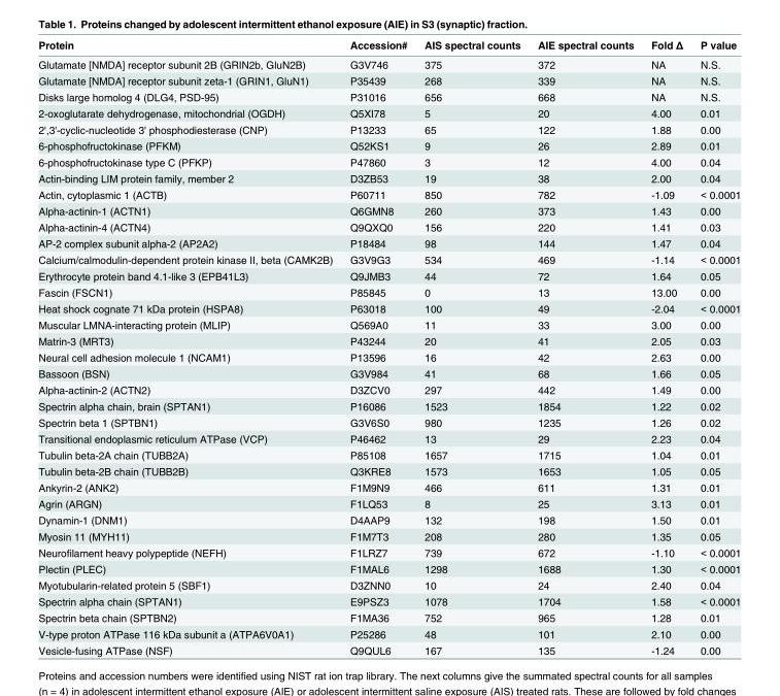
<table><thead><tr><td>Protein</td><td>Accession#</td><td>AIS spectral counts</td><td>AIE spectral counts</td><td>Fold Δ</td><td>P value</td></tr></thead><tbody><tr><td>Glutamate [NMDA] receptor subunit 2B (GRIN2b, GluN2B)</td><td>G3V746</td><td>375</td><td>372</td><td>NA</td><td>N.S.</td></tr><tr><td>Glutamate [NMDA] receptor subunit zeta-1 (GRIN1, GluN1)</td><td>P35439</td><td>268</td><td>339</td><td>NA</td><td>N.S.</td></tr><tr><td>Disks large homolog 4 (DLG4, PSD-95)</td><td>P31016</td><td>656</td><td>668</td><td>NA</td><td>N.S.</td></tr><tr><td>2-oxoglutarate dehydrogenase, mitochondrial (OGDH)</td><td>Q5XI78</td><td>5</td><td>20</td><td>4.00</td><td>0.01</td></tr><tr><td>2&#x27;,3&#x27;-cyclic-nucleotide 3&#x27; phosphodiesterase (CNP)</td><td>P13233</td><td>65</td><td>122</td><td>1.88</td><td>0.00</td></tr><tr><td>6-phosphofructokinase (PFKM)</td><td>Q52KS1</td><td>9</td><td>26</td><td>2.89</td><td>0.01</td></tr><tr><td>6-phosphofructokinase type C (PFKP)</td><td>P47860</td><td>3</td><td>12</td><td>4.00</td><td>0.04</td></tr><tr><td>Actin-binding LIM protein family, member 2</td><td>D3ZB53</td><td>19</td><td>38</td><td>2.00</td><td>0.04</td></tr><tr><td>Actin, cytoplasmic 1 (ACTB)</td><td>P60711</td><td>850</td><td>782</td><td>-1.09</td><td>&lt; 0.0001</td></tr><tr><td>Alpha-actinin-1 (ACTN1)</td><td>Q6GMN8</td><td>260</td><td>373</td><td>1.43</td><td>0.00</td></tr><tr><td>Alpha-actinin-4 (ACTN4)</td><td>Q9QXQ0</td><td>156</td><td>220</td><td>1.41</td><td>0.03</td></tr><tr><td>AP-2 complex subunit alpha-2 (AP2A2)</td><td>P18484</td><td>98</td><td>144</td><td>1.47</td><td>0.04</td></tr><tr><td>Calcium/calmodulin-dependent protein kinase II, beta (CAMK2B)</td><td>G3V9G3</td><td>534</td><td>469</td><td>-1.14</td><td>&lt; 0.0001</td></tr><tr><td>Erythrocyte protein band 4.1-like 3 (EPB41L3)</td><td>Q9JMB3</td><td>44</td><td>72</td><td>1.64</td><td>0.05</td></tr><tr><td>Fascin (FSCN1)</td><td>P85845</td><td>0</td><td>13</td><td>13.00</td><td>0.00</td></tr><tr><td>Heat shock cognate 71 kDa protein (HSPA8)</td><td>P63018</td><td>100</td><td>49</td><td>-2.04</td><td>&lt; 0.0001</td></tr><tr><td>Muscular LMNA-interacting protein (MLIP)</td><td>Q569A0</td><td>11</td><td>33</td><td>3.00</td><td>0.00</td></tr><tr><td>Matrin-3 (MRT3)</td><td>P43244</td><td>20</td><td>41</td><td>2.05</td><td>0.03</td></tr><tr><td>Neural cell adhesion molecule 1 (NCAM1)</td><td>P13596</td><td>16</td><td>42</td><td>2.63</td><td>0.00</td></tr><tr><td>Bassoon (BSN)</td><td>G3V984</td><td>41</td><td>68</td><td>1.66</td><td>0.05</td></tr><tr><td>Alpha-actinin-2 (ACTN2)</td><td>D3ZCV0</td><td>297</td><td>442</td><td>1.49</td><td>0.00</td></tr><tr><td>Spectrin alpha chain, brain (SPTAN1)</td><td>P16086</td><td>1523</td><td>1854</td><td>1.22</td><td>0.02</td></tr><tr><td>Spectrin beta 1 (SPTBN1)</td><td>G3V6S0</td><td>980</td><td>1235</td><td>1.26</td><td>0.02</td></tr><tr><td>Transitional endoplasmic reticulum ATPase (VCP)</td><td>P46462</td><td>13</td><td>29</td><td>2.23</td><td>0.04</td></tr><tr><td>Tubulin beta-2A chain (TUBB2A)</td><td>P85108</td><td>1657</td><td>1715</td><td>1.04</td><td>0.01</td></tr><tr><td>Tubulin beta-2B chain (TUBB2B)</td><td>Q3KRE8</td><td>1573</td><td>1653</td><td>1.05</td><td>0.05</td></tr><tr><td>Ankyrin-2 (ANK2)</td><td>F1M9N9</td><td>466</td><td>611</td><td>1.31</td><td>0.01</td></tr><tr><td>Agrin (ARGN)</td><td>F1LQ53</td><td>8</td><td>25</td><td>3.13</td><td>0.01</td></tr><tr><td>Dynamin-1 (DNM1)</td><td>D4AAP9</td><td>132</td><td>198</td><td>1.50</td><td>0.01</td></tr><tr><td>Myosin 11 (MYH11)</td><td>F1M7T3</td><td>208</td><td>280</td><td>1.35</td><td>0.05</td></tr><tr><td>Neurofilament heavy polypeptide (NEFH)</td><td>F1LRZ7</td><td>739</td><td>672</td><td>-1.10</td><td>&lt; 0.0001</td></tr><tr><td>Plectin (PLEC)</td><td>F1MAL6</td><td>1298</td><td>1688</td><td>1.30</td><td>&lt; 0.0001</td></tr><tr><td>Myotubularin-related protein 5 (SBF1)</td><td>D3ZNN0</td><td>10</td><td>24</td><td>2.40</td><td>0.04</td></tr><tr><td>Spectrin alpha chain (SPTAN1)</td><td>E9PSZ3</td><td>1078</td><td>1704</td><td>1.58</td><td>&lt; 0.0001</td></tr><tr><td>Spectrin beta chain (SPTBN2)</td><td>F1MA36</td><td>752</td><td>965</td><td>1.28</td><td>0.01</td></tr><tr><td>V-type proton ATPase 116 kDa subunit a (ATPA6V0A1)</td><td>P25286</td><td>48</td><td>101</td><td>2.10</td><td>0.00</td></tr><tr><td>Vesicle-fusing ATPase (NSF)</td><td>Q9QUL6</td><td>167</td><td>135</td><td>-1.24</td><td>0.00</td></tr></tbody></table>